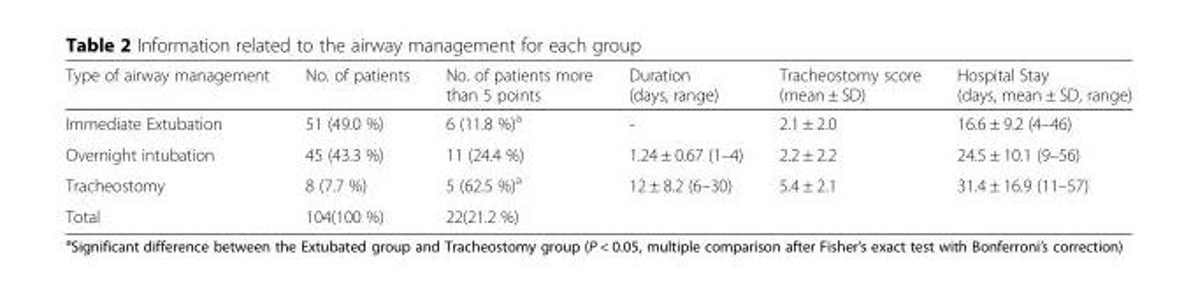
<table><thead><tr><td>Type of airway management</td><td>No. of patients</td><td>No. of patients more than 5 points</td><td>Duration (days, range)</td><td>Tracheostomy score (mean ± SD)</td><td>Hospital Stay (days, mean ± SD, range)</td></tr></thead><tbody><tr><td>Immediate Extubation</td><td>51 (49.0 %)</td><td>6 (11.8 %)<sup>a</sup></td><td>-</td><td>2.1 ± 2.0</td><td>16.6 ± 9.2 (4–46)</td></tr><tr><td>Overnight intubation</td><td>45 (43.3 %)</td><td>11 (24.4 %)</td><td>1.24 ± 0.67 (1–4)</td><td>2.2 ± 2.2</td><td>24.5 ± 10.1 (9–56)</td></tr><tr><td>Tracheostomy</td><td>8 (7.7 %)</td><td>5 (62.5 %)<sup>a</sup></td><td>12 ± 8.2 (6–30)</td><td>5.4 ± 2.1</td><td>31.4 ± 16.9 (11–57)</td></tr><tr><td>Total</td><td>104(100 %)</td><td>22(21.2 %)</td><td></td><td></td><td></td></tr></tbody></table>